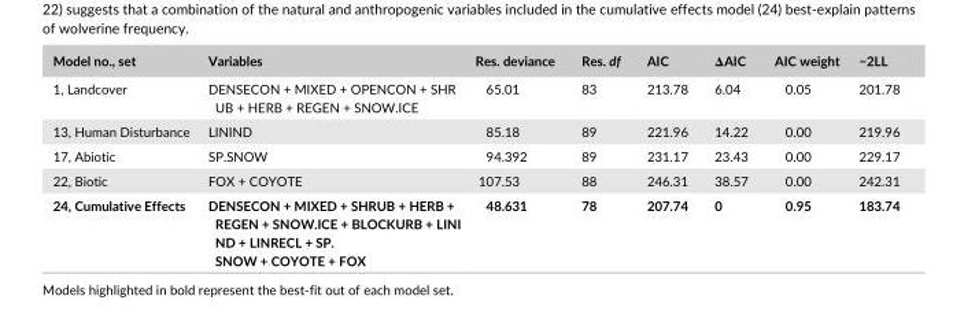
<table><thead><tr><td>Model no., set</td><td>Variables</td><td>Res. deviance</td><td>Res. df</td><td>AIC</td><td>ΔAIC</td><td>AIC weight</td><td>−2LL</td></tr></thead><tbody><tr><td>1, Landcover</td><td>DENSECON + MIXED + OPENCON + SHR UB + HERB + REGEN + SNOW.ICE</td><td>65.01</td><td>83</td><td>213.78</td><td>6.04</td><td>0.05</td><td>201.78</td></tr><tr><td>13, Human Disturbance</td><td>LININD</td><td>85.18</td><td>89</td><td>221.96</td><td>14.22</td><td>0.00</td><td>219.96</td></tr><tr><td>17, Abiotic</td><td>SP.SNOW</td><td>94.392</td><td>89</td><td>231.17</td><td>23.43</td><td>0.00</td><td>229.17</td></tr><tr><td>22, Biotic</td><td>FOX + COYOTE</td><td>107.53</td><td>88</td><td>246.31</td><td>38.57</td><td>0.00</td><td>242.31</td></tr><tr><td>24, Cumulative Effects</td><td>DENSECON + MIXED + SHRUB + HERB + REGEN + SNOW.ICE + BLOCKURB + LINI ND + LINRECL + SP. SNOW + COYOTE + FOX</td><td>48.631</td><td>78</td><td>207.74</td><td>0</td><td>0.95</td><td>183.74</td></tr></tbody></table>